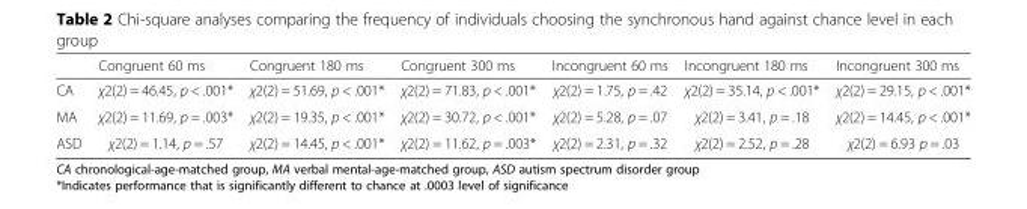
<table><thead><tr><td></td><td>Congruent 60 ms</td><td>Congruent 180 ms</td><td>Congruent 300 ms</td><td>Incongruent 60 ms</td><td>Incongruent 180 ms</td><td>Incongruent 300 ms</td></tr></thead><tbody><tr><td>CA</td><td>χ2(2) = 46.45, p &lt; .001*</td><td>χ2(2) = 51.69, p &lt; .001*</td><td>χ2(2) = 71.83, p &lt; .001*</td><td>χ2(2) = 1.75, p = .42</td><td>χ2(2) = 35.14, p &lt; .001*</td><td>χ2(2) = 29.15, p &lt; .001*</td></tr><tr><td>MA</td><td>χ2(2) = 11.69, p = .003*</td><td>χ2(2) = 19.35, p &lt; .001*</td><td>χ2(2) = 30.72, p &lt; .001*</td><td>χ2(2) = 5.28, p = .07</td><td>χ2(2) = 3.41, p = .18</td><td>χ2(2) = 14.45, p &lt; .001*</td></tr><tr><td>ASD</td><td>χ2(2) = 1.14, p = .57</td><td>χ2(2) = 14.45, p &lt; .001*</td><td>χ2(2) = 11.62, p = .003*</td><td>χ2(2) = 2.31, p = .32</td><td>χ2(2) = 2.52, p = .28</td><td>χ2(2) = 6.93 p = .03</td></tr></tbody></table>